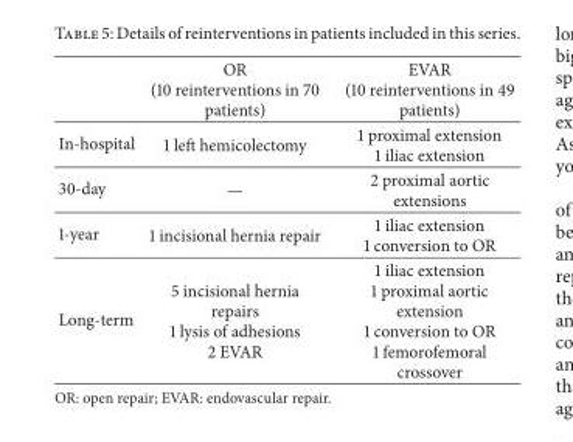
<table><thead><tr><td></td><td>OR (10 reinterventions in 70 patients)</td><td>EVAR (10 reinterventions in 49 patients)</td></tr></thead><tbody><tr><td>In-hospital</td><td>1 left hemicolectomy</td><td>1 proximal extension 1 iliac extension</td></tr><tr><td>30-day</td><td>—</td><td>2 proximal aortic extensions</td></tr><tr><td>1-year</td><td>1 incisional hernia repair</td><td>1 iliac extension 1 conversion to OR</td></tr><tr><td>Long-term</td><td>5 incisional hernia repairs 1 lysis of adhesions 2 EVAR</td><td>1 iliac extension 1 proximal aortic extension 1 conversion to OR 1 femorofemoral crossover</td></tr></tbody></table>